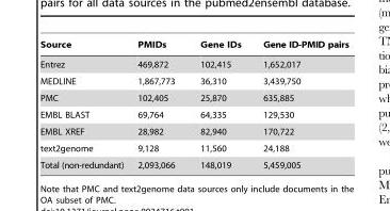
<table><thead><tr><td>Source</td><td>PMIDs</td><td>Gene IDs</td><td>Gene ID-PMID pairs</td></tr></thead><tbody><tr><td>Entrez</td><td>469,872</td><td>102,415</td><td>1,652,017</td></tr><tr><td>MEDLINE</td><td>1,867,773</td><td>36,310</td><td>3,439,750</td></tr><tr><td>PMC</td><td>102,405</td><td>25,870</td><td>635,885</td></tr><tr><td>EMBL BLAST</td><td>69,764</td><td>64,335</td><td>129,530</td></tr><tr><td>EMBL XREF</td><td>28,982</td><td>82,940</td><td>170,722</td></tr><tr><td>text2genome</td><td>9,128</td><td>11,560</td><td>24,188</td></tr><tr><td>Total (non-redundant)</td><td>2,093,066</td><td>148,019</td><td>5,459,005</td></tr></tbody></table>